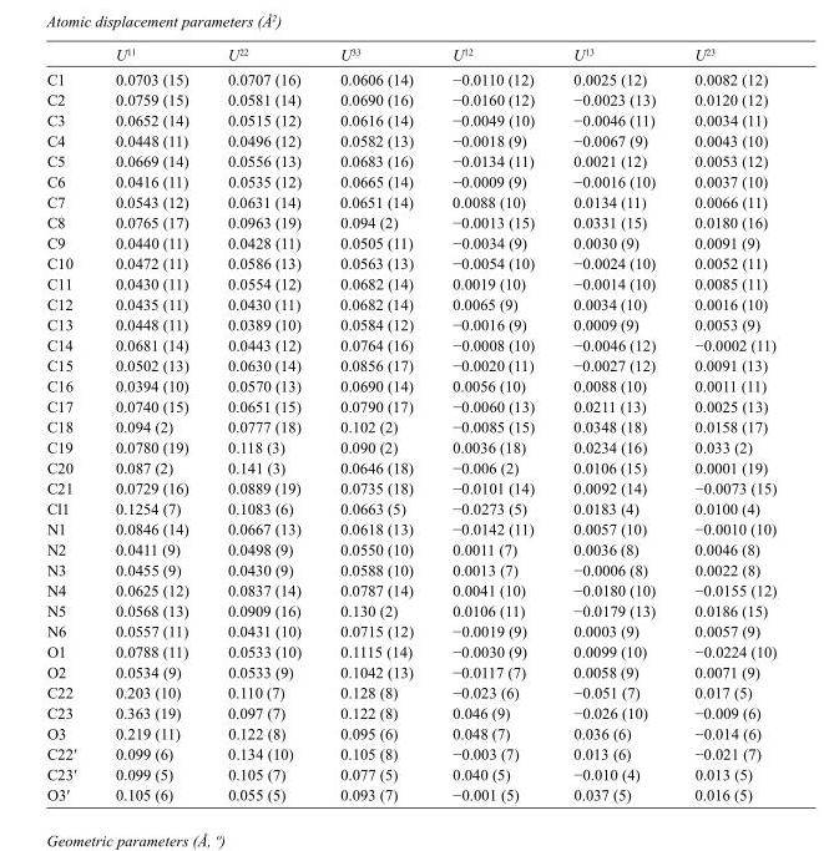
<table><thead><tr><td></td><td>U<sup>11</sup></td><td>U<sup>22</sup></td><td>U<sup>33</sup></td><td>U<sup>12</sup></td><td>U<sup>13</sup></td><td>U<sup>23</sup></td></tr></thead><tbody><tr><td>C1</td><td>0.0703 (15)</td><td>0.0707 (16)</td><td>0.0606 (14)</td><td>−0.0110 (12)</td><td>0.0025 (12)</td><td>0.0082 (12)</td></tr><tr><td>C2</td><td>0.0759 (15)</td><td>0.0581 (14)</td><td>0.0690 (16)</td><td>−0.0160 (12)</td><td>−0.0023 (13)</td><td>0.0120 (12)</td></tr><tr><td>C3</td><td>0.0652 (14)</td><td>0.0515 (12)</td><td>0.0616 (14)</td><td>−0.0049 (10)</td><td>−0.0046 (11)</td><td>0.0034 (11)</td></tr><tr><td>C4</td><td>0.0448 (11)</td><td>0.0496 (12)</td><td>0.0582 (13)</td><td>−0.0018 (9)</td><td>−0.0067 (9)</td><td>0.0043 (10)</td></tr><tr><td>C5</td><td>0.0669 (14)</td><td>0.0556 (13)</td><td>0.0683 (16)</td><td>−0.0134 (11)</td><td>0.0021 (12)</td><td>0.0053 (12)</td></tr><tr><td>C6</td><td>0.0416 (11)</td><td>0.0535 (12)</td><td>0.0665 (14)</td><td>−0.0009 (9)</td><td>−0.0016 (10)</td><td>0.0037 (10)</td></tr><tr><td>C7</td><td>0.0543 (12)</td><td>0.0631 (14)</td><td>0.0651 (14)</td><td>0.0088 (10)</td><td>0.0134 (11)</td><td>0.0066 (11)</td></tr><tr><td>C8</td><td>0.0765 (17)</td><td>0.0963 (19)</td><td>0.094 (2)</td><td>−0.0013 (15)</td><td>0.0331 (15)</td><td>0.0180 (16)</td></tr><tr><td>C9</td><td>0.0440 (11)</td><td>0.0428 (11)</td><td>0.0505 (11)</td><td>−0.0034 (9)</td><td>0.0030 (9)</td><td>0.0091 (9)</td></tr><tr><td>C10</td><td>0.0472 (11)</td><td>0.0586 (13)</td><td>0.0563 (13)</td><td>−0.0054 (10)</td><td>−0.0024 (10)</td><td>0.0052 (11)</td></tr><tr><td>C11</td><td>0.0430 (11)</td><td>0.0554 (12)</td><td>0.0682 (14)</td><td>0.0019 (10)</td><td>−0.0014 (10)</td><td>0.0085 (11)</td></tr><tr><td>C12</td><td>0.0435 (11)</td><td>0.0430 (11)</td><td>0.0682 (14)</td><td>0.0065 (9)</td><td>0.0034 (10)</td><td>0.0016 (10)</td></tr><tr><td>C13</td><td>0.0448 (11)</td><td>0.0389 (10)</td><td>0.0584 (12)</td><td>−0.0016 (9)</td><td>0.0009 (9)</td><td>0.0053 (9)</td></tr><tr><td>C14</td><td>0.0681 (14)</td><td>0.0443 (12)</td><td>0.0764 (16)</td><td>−0.0008 (10)</td><td>−0.0046 (12)</td><td>−0.0002 (11)</td></tr><tr><td>C15</td><td>0.0502 (13)</td><td>0.0630 (14)</td><td>0.0856 (17)</td><td>−0.0020 (11)</td><td>−0.0027 (12)</td><td>0.0091 (13)</td></tr><tr><td>C16</td><td>0.0394 (10)</td><td>0.0570 (13)</td><td>0.0690 (14)</td><td>0.0056 (10)</td><td>0.0088 (10)</td><td>0.0011 (11)</td></tr><tr><td>C17</td><td>0.0740 (15)</td><td>0.0651 (15)</td><td>0.0790 (17)</td><td>−0.0060 (13)</td><td>0.0211 (13)</td><td>0.0025 (13)</td></tr><tr><td>C18</td><td>0.094 (2)</td><td>0.0777 (18)</td><td>0.102 (2)</td><td>−0.0085 (15)</td><td>0.0348 (18)</td><td>0.0158 (17)</td></tr><tr><td>C19</td><td>0.0780 (19)</td><td>0.118 (3)</td><td>0.090 (2)</td><td>0.0036 (18)</td><td>0.0234 (16)</td><td>0.033 (2)</td></tr><tr><td>C20</td><td>0.087 (2)</td><td>0.141 (3)</td><td>0.0646 (18)</td><td>−0.006 (2)</td><td>0.0106 (15)</td><td>0.0001 (19)</td></tr><tr><td>C21</td><td>0.0729 (16)</td><td>0.0889 (19)</td><td>0.0735 (18)</td><td>−0.0101 (14)</td><td>0.0092 (14)</td><td>−0.0073 (15)</td></tr><tr><td>Cl1</td><td>0.1254 (7)</td><td>0.1083 (6)</td><td>0.0663 (5)</td><td>−0.0273 (5)</td><td>0.0183 (4)</td><td>0.0100 (4)</td></tr><tr><td>N1</td><td>0.0846 (14)</td><td>0.0667 (13)</td><td>0.0618 (13)</td><td>−0.0142 (11)</td><td>0.0057 (10)</td><td>−0.0010 (10)</td></tr><tr><td>N2</td><td>0.0411 (9)</td><td>0.0498 (9)</td><td>0.0550 (10)</td><td>0.0011 (7)</td><td>0.0036 (8)</td><td>0.0046 (8)</td></tr><tr><td>N3</td><td>0.0455 (9)</td><td>0.0430 (9)</td><td>0.0588 (10)</td><td>0.0013 (7)</td><td>−0.0006 (8)</td><td>0.0022 (8)</td></tr><tr><td>N4</td><td>0.0625 (12)</td><td>0.0837 (14)</td><td>0.0787 (14)</td><td>0.0041 (10)</td><td>−0.0180 (10)</td><td>−0.0155 (12)</td></tr><tr><td>N5</td><td>0.0568 (13)</td><td>0.0909 (16)</td><td>0.130 (2)</td><td>0.0106 (11)</td><td>−0.0179 (13)</td><td>0.0186 (15)</td></tr><tr><td>N6</td><td>0.0557 (11)</td><td>0.0431 (10)</td><td>0.0715 (12)</td><td>−0.0019 (9)</td><td>0.0003 (9)</td><td>0.0057 (9)</td></tr><tr><td>O1</td><td>0.0788 (11)</td><td>0.0533 (10)</td><td>0.1115 (14)</td><td>−0.0030 (9)</td><td>0.0099 (10)</td><td>−0.0224 (10)</td></tr><tr><td>O2</td><td>0.0534 (9)</td><td>0.0533 (9)</td><td>0.1042 (13)</td><td>−0.0117 (7)</td><td>0.0058 (9)</td><td>0.0071 (9)</td></tr><tr><td>C22</td><td>0.203 (10)</td><td>0.110 (7)</td><td>0.128 (8)</td><td>−0.023 (6)</td><td>−0.051 (7)</td><td>0.017 (5)</td></tr><tr><td>C23</td><td>0.363 (19)</td><td>0.097 (7)</td><td>0.122 (8)</td><td>0.046 (9)</td><td>−0.026 (10)</td><td>−0.009 (6)</td></tr><tr><td>O3</td><td>0.219 (11)</td><td>0.122 (8)</td><td>0.095 (6)</td><td>0.048 (7)</td><td>0.036 (6)</td><td>−0.014 (6)</td></tr><tr><td>C22′</td><td>0.099 (6)</td><td>0.134 (10)</td><td>0.105 (8)</td><td>−0.003 (7)</td><td>0.013 (6)</td><td>−0.021 (7)</td></tr><tr><td>C23′</td><td>0.099 (5)</td><td>0.105 (7)</td><td>0.077 (5)</td><td>0.040 (5)</td><td>−0.010 (4)</td><td>0.013 (5)</td></tr><tr><td>O3′</td><td>0.105 (6)</td><td>0.055 (5)</td><td>0.093 (7)</td><td>−0.001 (5)</td><td>0.037 (5)</td><td>0.016 (5)</td></tr></tbody></table>